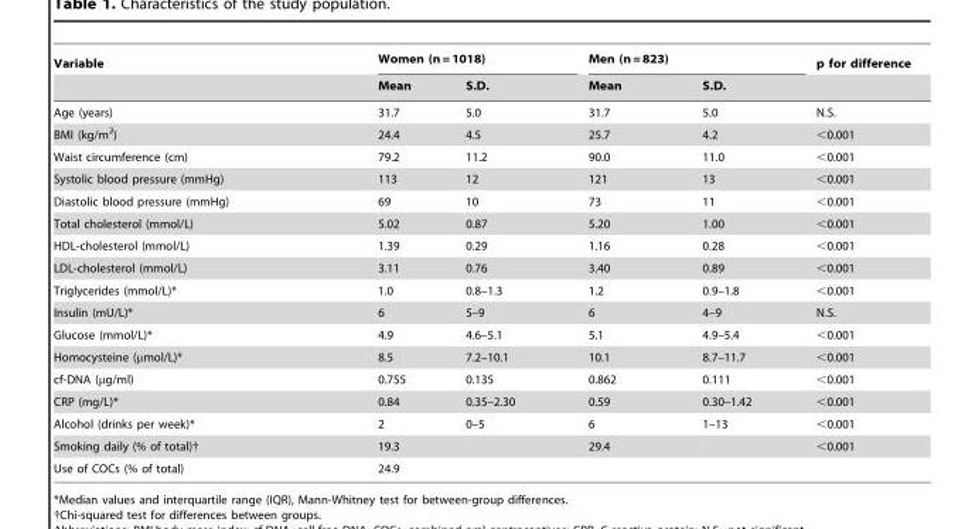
<table><thead><tr><td rowspan="2">Variable</td><td colspan="2">Women (n = 1018)</td><td colspan="2">Men (n = 823)</td><td rowspan="2">p for difference</td></tr><tr><td>Mean</td><td>S.D.</td><td>Mean</td><td>S.D.</td></tr></thead><tbody><tr><td>Age (years)</td><td>31.7</td><td>5.0</td><td>31.7</td><td>5.0</td><td>N.S.</td></tr><tr><td>BMI (kg/m<sup>2</sup>)</td><td>24.4</td><td>4.5</td><td>25.7</td><td>4.2</td><td>&lt;0.001</td></tr><tr><td>Waist circumference (cm)</td><td>79.2</td><td>11.2</td><td>90.0</td><td>11.0</td><td>&lt;0.001</td></tr><tr><td>Systolic blood pressure (mmHg)</td><td>113</td><td>12</td><td>121</td><td>13</td><td>&lt;0.001</td></tr><tr><td>Diastolic blood pressure (mmHg)</td><td>69</td><td>10</td><td>73</td><td>11</td><td>&lt;0.001</td></tr><tr><td>Total cholesterol (mmol/L)</td><td>5.02</td><td>0.87</td><td>5.20</td><td>1.00</td><td>&lt;0.001</td></tr><tr><td>HDL-cholesterol (mmol/L)</td><td>1.39</td><td>0.29</td><td>1.16</td><td>0.28</td><td>&lt;0.001</td></tr><tr><td>LDL-cholesterol (mmol/L)</td><td>3.11</td><td>0.76</td><td>3.40</td><td>0.89</td><td>&lt;0.001</td></tr><tr><td>Triglycerides (mmol/L)*</td><td>1.0</td><td>0.8–1.3</td><td>1.2</td><td>0.9–1.8</td><td>&lt;0.001</td></tr><tr><td>Insulin (mU/L)*</td><td>6</td><td>5–9</td><td>6</td><td>4–9</td><td>N.S.</td></tr><tr><td>Glucose (mmol/L)*</td><td>4.9</td><td>4.6–5.1</td><td>5.1</td><td>4.9–5.4</td><td>&lt;0.001</td></tr><tr><td>Homocysteine (μmol/L)*</td><td>8.5</td><td>7.2–10.1</td><td>10.1</td><td>8.7–11.7</td><td>&lt;0.001</td></tr><tr><td>cf-DNA (μg/ml)</td><td>0.755</td><td>0.135</td><td>0.862</td><td>0.111</td><td>&lt;0.001</td></tr><tr><td>CRP (mg/L)*</td><td>0.84</td><td>0.35–2.30</td><td>0.59</td><td>0.30–1.42</td><td>&lt;0.001</td></tr><tr><td>Alcohol (drinks per week)*</td><td>2</td><td>0–5</td><td>6</td><td>1–13</td><td>&lt;0.001</td></tr><tr><td>Smoking daily (% of total)†</td><td>19.3</td><td></td><td>29.4</td><td></td><td>&lt;0.001</td></tr><tr><td>Use of COCs (% of total)</td><td>24.9</td><td></td><td></td><td></td><td></td></tr></tbody></table>